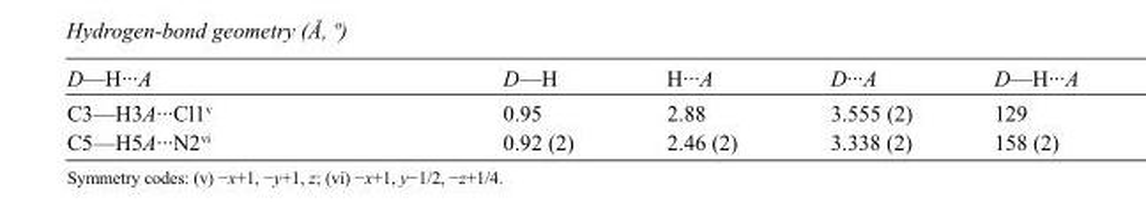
<table><tbody><tr><td>D—H···A</td><td>D—H</td><td>H···A</td><td>D···A</td><td>D—H···A</td></tr><tr><td>C3—H3A···Cl1<sup>v</sup></td><td>0.95</td><td>2.88</td><td>3.555 (2)</td><td>129</td></tr><tr><td>C5—H5A···N2<sup>vi</sup></td><td>0.92 (2)</td><td>2.46 (2)</td><td>3.338 (2)</td><td>158 (2)</td></tr></tbody></table>